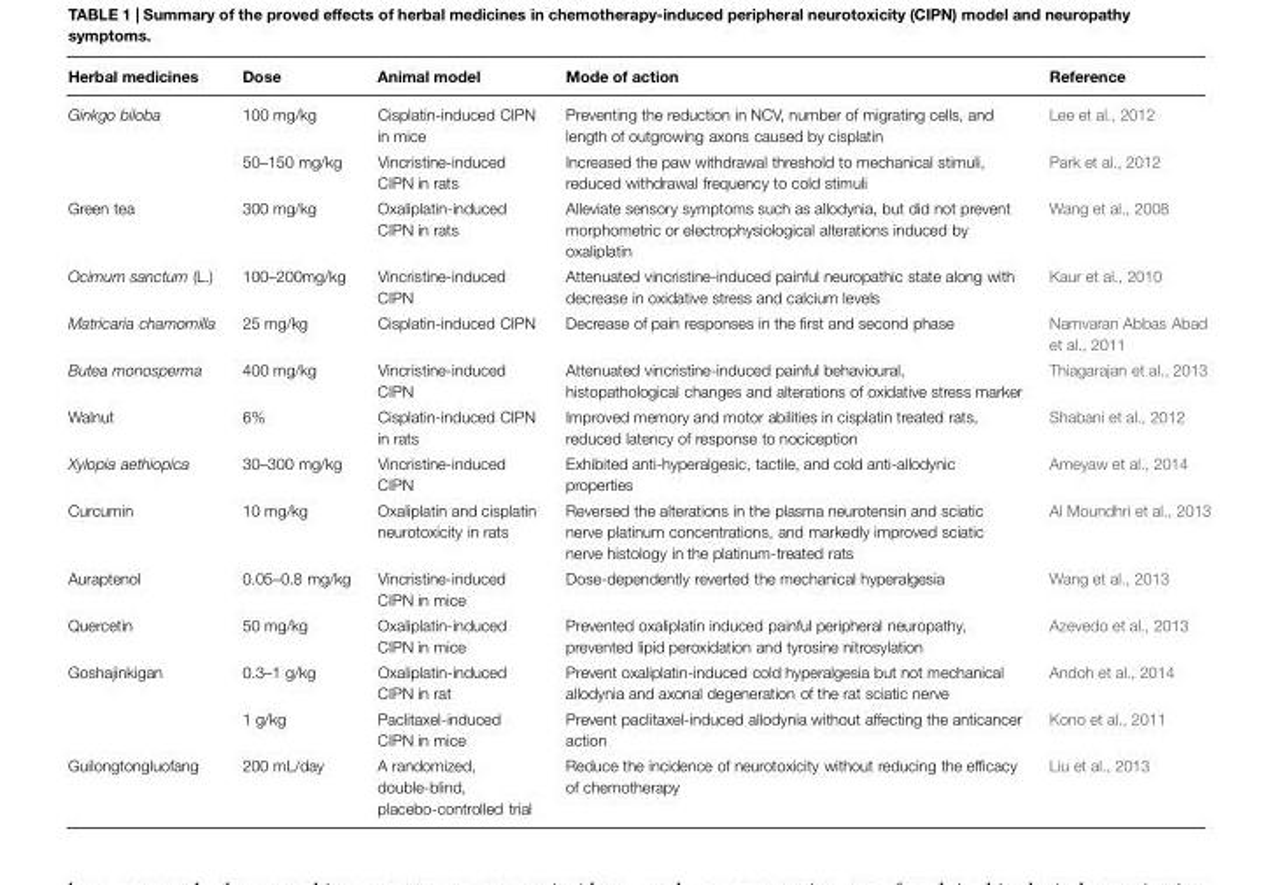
<table><thead><tr><td>Herbal medicines</td><td>Dose</td><td>Animal model</td><td>Mode of action</td><td>Reference</td></tr></thead><tbody><tr><td rowspan="2">Ginkgo biloba</td><td>100 mg/kg</td><td>Cisplatin-induced CIPN in mice</td><td>Preventing the reduction in NCV, number of migrating cells, and length of outgrowing axons caused by cisplatin</td><td>Lee et al., 2012</td></tr><tr><td>50–150 mg/kg</td><td>Vincristine-induced CIPN in rats</td><td>Increased the paw withdrawal threshold to mechanical stimuli, reduced withdrawal frequency to cold stimuli</td><td>Park et al., 2012</td></tr><tr><td>Green tea</td><td>300 mg/kg</td><td>Oxaliplatin-induced CIPN in rats</td><td>Alleviate sensory symptoms such as allodynia, but did not prevent morphometric or electrophysiological alterations induced by oxaliplatin</td><td>Wang et al., 2008</td></tr><tr><td>Ocimum sanctum (L.)</td><td>100–200mg/kg</td><td>Vincristine-induced CIPN</td><td>Attenuated vincristine-induced painful neuropathic state along with decrease in oxidative stress and calcium levels</td><td>Kaur et al., 2010</td></tr><tr><td>Matricaria chamomilla</td><td>25 mg/kg</td><td>Cisplatin-induced CIPN</td><td>Decrease of pain responses in the first and second phase</td><td>Namvaran Abbas Abad et al., 2011</td></tr><tr><td>Butea monosperma</td><td>400 mg/kg</td><td>Vincristine-induced CIPN</td><td>Attenuated vincristine-induced painful behavioural, histopathological changes and alterations of oxidative stress marker</td><td>Thiagarajan et al., 2013</td></tr><tr><td>Walnut</td><td>6%</td><td>Cisplatin-induced CIPN in rats</td><td>Improved memory and motor abilities in cisplatin treated rats, reduced latency of response to nociception</td><td>Shabani et al., 2012</td></tr><tr><td>Xylopia aethiopica</td><td>30–300 mg/kg</td><td>Vincristine-induced CIPN</td><td>Exhibited anti-hyperalgesic, tactile, and cold anti-allodynic properties</td><td>Ameyaw et al., 2014</td></tr><tr><td>Curcumin</td><td>10 mg/kg</td><td>Oxaliplatin and cisplatin neurotoxicity in rats</td><td>Reversed the alterations in the plasma neurotensin and sciatic nerve platinum concentrations, and markedly improved sciatic nerve histology in the platinum-treated rats</td><td>Al Moundhri et al., 2013</td></tr><tr><td>Auraptenol</td><td>0.05–0.8 mg/kg</td><td>Vincristine-induced CIPN in mice</td><td>Dose-dependently reverted the mechanical hyperalgesia</td><td>Wang et al., 2013</td></tr><tr><td>Quercetin</td><td>50 mg/kg</td><td>Oxaliplatin-induced CIPN in mice</td><td>Prevented oxaliplatin induced painful peripheral neuropathy, prevented lipid peroxidation and tyrosine nitrosylation</td><td>Azevedo et al., 2013</td></tr><tr><td rowspan="2">Goshajinkigan</td><td>0.3–1 g/kg</td><td>Oxaliplatin-induced CIPN in rat</td><td>Prevent oxaliplatin-induced cold hyperalgesia but not mechanical allodynia and axonal degeneration of the rat sciatic nerve</td><td>Andoh et al., 2014</td></tr><tr><td>1 g/kg</td><td>Paclitaxel-induced CIPN in mice</td><td>Prevent paclitaxel-induced allodynia without affecting the anticancer action</td><td>Kono et al., 2011</td></tr><tr><td>Guilongtongluofang</td><td>200 mL/day</td><td>A randomized, double-blind, placebo-controlled trial</td><td>Reduce the incidence of neurotoxicity without reducing the efficacy of chemotherapy</td><td>Liu et al., 2013</td></tr></tbody></table>